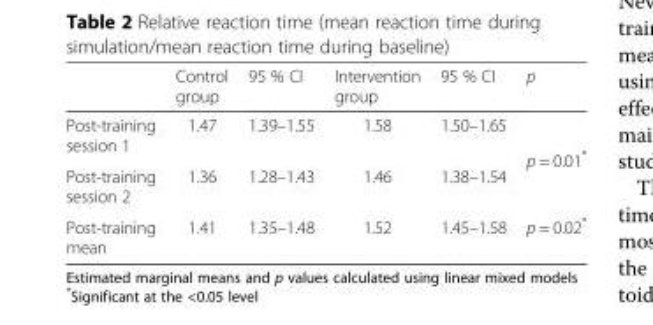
<table><thead><tr><td></td><td>Control group</td><td>95 % CI</td><td>Intervention group</td><td>95 % CI</td><td>p</td></tr></thead><tbody><tr><td>Post-training session 1</td><td>1.47</td><td>1.39–1.55</td><td>1.58</td><td>1.50–1.65</td><td rowspan="2">p = 0.01*</td></tr><tr><td>Post-training session 2</td><td>1.36</td><td>1.28–1.43</td><td>1.46</td><td>1.38–1.54</td></tr><tr><td>Post-training mean</td><td>1.41</td><td>1.35–1.48</td><td>1.52</td><td>1.45–1.58</td><td>p = 0.02*</td></tr></tbody></table>